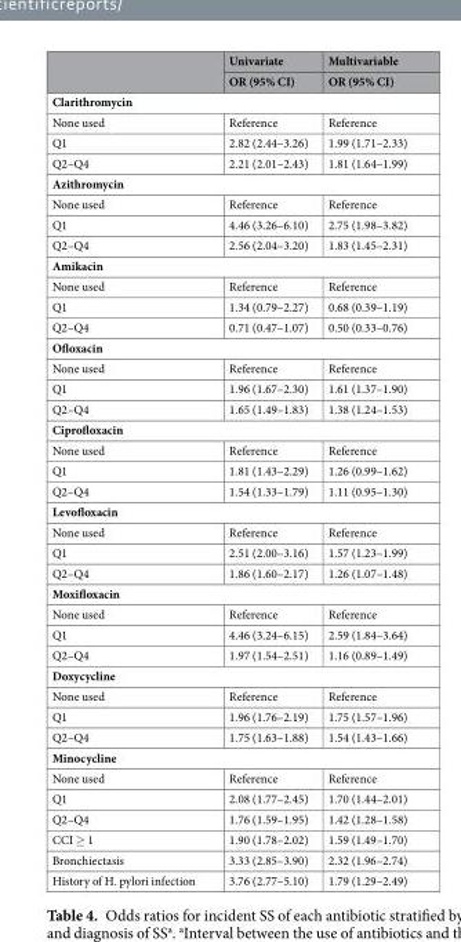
<table><thead><tr><td rowspan="2"></td><td rowspan="2">Univariate OR (95% CI)</td><td rowspan="2">Multivariable OR (95% CI)</td></tr><tr></tr></thead><tbody><tr><td colspan="3">Clarithromycin</td></tr><tr><td>None used</td><td>Reference</td><td>Reference</td></tr><tr><td>Q1</td><td>2.82 (2.44–3.26)</td><td>1.99 (1.71–2.33)</td></tr><tr><td>Q2–Q4</td><td>2.21 (2.01–2.43)</td><td>1.81 (1.64–1.99)</td></tr><tr><td colspan="3">Azithromycin</td></tr><tr><td>None used</td><td>Reference</td><td>Reference</td></tr><tr><td>Q1</td><td>4.46 (3.26–6.10)</td><td>2.75 (1.98–3.82)</td></tr><tr><td>Q2–Q4</td><td>2.56 (2.04–3.20)</td><td>1.83 (1.45–2.31)</td></tr><tr><td colspan="3">Amikacin</td></tr><tr><td>None used</td><td>Reference</td><td>Reference</td></tr><tr><td>Q1</td><td>1.34 (0.79–2.27)</td><td>0.68 (0.39–1.19)</td></tr><tr><td>Q2–Q4</td><td>0.71 (0.47–1.07)</td><td>0.50 (0.33–0.76)</td></tr><tr><td colspan="3">Ofloxacin</td></tr><tr><td>None used</td><td>Reference</td><td>Reference</td></tr><tr><td>Q1</td><td>1.96 (1.67–2.30)</td><td>1.61 (1.37–1.90)</td></tr><tr><td>Q2–Q4</td><td>1.65 (1.49–1.83)</td><td>1.38 (1.24–1.53)</td></tr><tr><td colspan="3">Ciprofloxacin</td></tr><tr><td>None used</td><td>Reference</td><td>Reference</td></tr><tr><td>Q1</td><td>1.81 (1.43–2.29)</td><td>1.26 (0.99–1.62)</td></tr><tr><td>Q2–Q4</td><td>1.54 (1.33–1.79)</td><td>1.11 (0.95–1.30)</td></tr><tr><td colspan="3">Levofloxacin</td></tr><tr><td>None used</td><td>Reference</td><td>Reference</td></tr><tr><td>Q1</td><td>2.51 (2.00–3.16)</td><td>1.57 (1.23–1.99)</td></tr><tr><td>Q2–Q4</td><td>1.86 (1.60–2.17)</td><td>1.26 (1.07–1.48)</td></tr><tr><td colspan="3">Moxifloxacin</td></tr><tr><td>None used</td><td>Reference</td><td>Reference</td></tr><tr><td>Q1</td><td>4.46 (3.24–6.15)</td><td>2.59 (1.84–3.64)</td></tr><tr><td>Q2–Q4</td><td>1.97 (1.54–2.51)</td><td>1.16 (0.89–1.49)</td></tr><tr><td colspan="3">Doxycycline</td></tr><tr><td>None used</td><td>Reference</td><td>Reference</td></tr><tr><td>Q1</td><td>1.96 (1.76–2.19)</td><td>1.75 (1.57–1.96)</td></tr><tr><td>Q2–Q4</td><td>1.75 (1.63–1.88)</td><td>1.54 (1.43–1.66)</td></tr><tr><td colspan="3">Minocycline</td></tr><tr><td>None used</td><td>Reference</td><td>Reference</td></tr><tr><td>Q1</td><td>2.08 (1.77–2.45)</td><td>1.70 (1.44–2.01)</td></tr><tr><td>Q2–Q4</td><td>1.76 (1.59–1.95)</td><td>1.42 (1.28–1.58)</td></tr><tr><td>CCI ≥ 1</td><td>1.90 (1.78–2.02)</td><td>1.59 (1.49–1.70)</td></tr><tr><td>Bronchiectasis</td><td>3.33 (2.85–3.90)</td><td>2.32 (1.96–2.74)</td></tr><tr><td>History of H. pylori infection</td><td>3.76 (2.77–5.10)</td><td>1.79 (1.29–2.49)</td></tr></tbody></table>